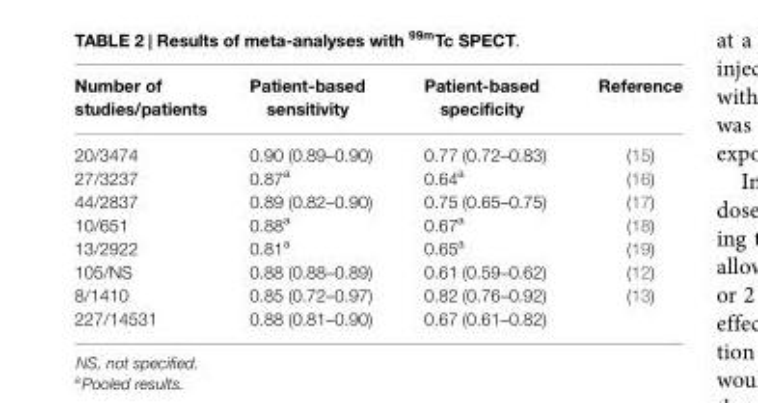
<table><thead><tr><td>Number of studies/patients</td><td>Patient-based sensitivity</td><td>Patient-based specificity</td><td>Reference</td></tr></thead><tbody><tr><td>20/3474</td><td>0.90 (0.89–0.90)</td><td>0.77 (0.72–0.83)</td><td>(15)</td></tr><tr><td>27/3237</td><td>0.87<sup>a</sup></td><td>0.64<sup>a</sup></td><td>(16)</td></tr><tr><td>44/2837</td><td>0.89 (0.82–0.90)</td><td>0.75 (0.65–0.75)</td><td>(17)</td></tr><tr><td>10/651</td><td>0.88<sup>a</sup></td><td>0.67<sup>a</sup></td><td>(18)</td></tr><tr><td>13/2922</td><td>0.81<sup>a</sup></td><td>0.65<sup>a</sup></td><td>(19)</td></tr><tr><td>105/NS</td><td>0.88 (0.88–0.89)</td><td>0.61 (0.59–0.62)</td><td>(12)</td></tr><tr><td>8/1410</td><td>0.85 (0.72–0.97)</td><td>0.82 (0.76–0.92)</td><td>(13)</td></tr><tr><td>227/14531</td><td>0.88 (0.81–0.90)</td><td>0.67 (0.61–0.82)</td><td></td></tr></tbody></table>